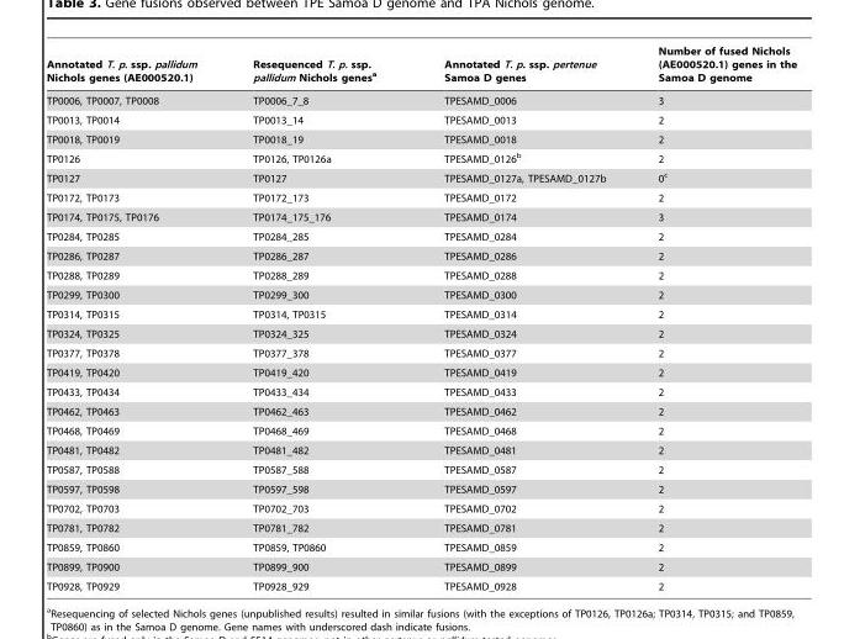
<table><thead><tr><td>Annotated T. p. ssp. pallidum Nichols genes (AE000520.1)</td><td>Resequenced T. p. ssp. pallidum Nichols genes<sup>a</sup></td><td>Annotated T. p. ssp. pertenue Samoa D genes</td><td>Number of fused Nichols (AE000520.1) genes in the Samoa D genome</td></tr></thead><tbody><tr><td>TP0006, TP0007, TP0008</td><td>TP0006_7_8</td><td>TPESAMD_0006</td><td>3</td></tr><tr><td>TP0013, TP0014</td><td>TP0013_14</td><td>TPESAMD_0013</td><td>2</td></tr><tr><td>TP0018, TP0019</td><td>TP0018_19</td><td>TPESAMD_0018</td><td>2</td></tr><tr><td>TP0126</td><td>TP0126, TP0126a</td><td>TPESAMD_0126<sup>b</sup></td><td>2</td></tr><tr><td>TP0127</td><td>TP0127</td><td>TPESAMD_0127a, TPESAMD_0127b</td><td>0<sup>c</sup></td></tr><tr><td>TP0172, TP0173</td><td>TP0172_173</td><td>TPESAMD_0172</td><td>2</td></tr><tr><td>TP0174, TP0175, TP0176</td><td>TP0174_175_176</td><td>TPESAMD_0174</td><td>3</td></tr><tr><td>TP0284, TP0285</td><td>TP0284_285</td><td>TPESAMD_0284</td><td>2</td></tr><tr><td>TP0286, TP0287</td><td>TP0286_287</td><td>TPESAMD_0286</td><td>2</td></tr><tr><td>TP0288, TP0289</td><td>TP0288_289</td><td>TPESAMD_0288</td><td>2</td></tr><tr><td>TP0299, TP0300</td><td>TP0299_300</td><td>TPESAMD_0300</td><td>2</td></tr><tr><td>TP0314, TP0315</td><td>TP0314, TP0315</td><td>TPESAMD_0314</td><td>2</td></tr><tr><td>TP0324, TP0325</td><td>TP0324_325</td><td>TPESAMD_0324</td><td>2</td></tr><tr><td>TP0377, TP0378</td><td>TP0377_378</td><td>TPESAMD_0377</td><td>2</td></tr><tr><td>TP0419, TP0420</td><td>TP0419_420</td><td>TPESAMD_0419</td><td>2</td></tr><tr><td>TP0433, TP0434</td><td>TP0433_434</td><td>TPESAMD_0433</td><td>2</td></tr><tr><td>TP0462, TP0463</td><td>TP0462_463</td><td>TPESAMD_0462</td><td>2</td></tr><tr><td>TP0468, TP0469</td><td>TP0468_469</td><td>TPESAMD_0468</td><td>2</td></tr><tr><td>TP0481, TP0482</td><td>TP0481_482</td><td>TPESAMD_0481</td><td>2</td></tr><tr><td>TP0587, TP0588</td><td>TP0587_588</td><td>TPESAMD_0587</td><td>2</td></tr><tr><td>TP0597, TP0598</td><td>TP0597_598</td><td>TPESAMD_0597</td><td>2</td></tr><tr><td>TP0702, TP0703</td><td>TP0702_703</td><td>TPESAMD_0702</td><td>2</td></tr><tr><td>TP0781, TP0782</td><td>TP0781_782</td><td>TPESAMD_0781</td><td>2</td></tr><tr><td>TP0859, TP0860</td><td>TP0859, TP0860</td><td>TPESAMD_0859</td><td>2</td></tr><tr><td>TP0899, TP0900</td><td>TP0899_900</td><td>TPESAMD_0899</td><td>2</td></tr><tr><td>TP0928, TP0929</td><td>TP0928_929</td><td>TPESAMD_0928</td><td>2</td></tr></tbody></table>